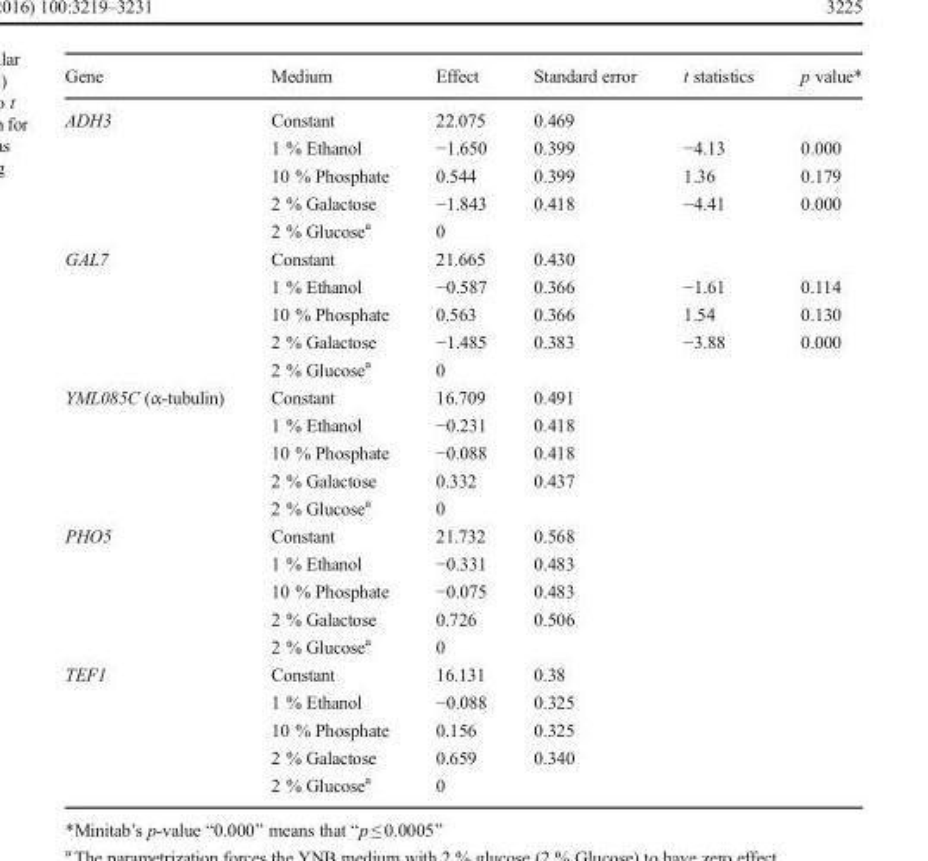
<table><thead><tr><td>Gene</td><td>Medium</td><td>Effect</td><td>Standard error</td><td>t statistics</td><td>p value*</td></tr></thead><tbody><tr><td rowspan="5">ADH3</td><td>Constant</td><td>22.075</td><td>0.469</td><td></td><td></td></tr><tr><td>1 % Ethanol</td><td>−1.650</td><td>0.399</td><td>−4.13</td><td>0.000</td></tr><tr><td>10 % Phosphate</td><td>0.544</td><td>0.399</td><td>1.36</td><td>0.179</td></tr><tr><td>2 % Galactose</td><td>−1.843</td><td>0.418</td><td>−4.41</td><td>0.000</td></tr><tr><td>2 % Glucose<sup>a</sup></td><td>0</td><td></td><td></td><td></td></tr><tr><td rowspan="5">GAL7</td><td>Constant</td><td>21.665</td><td>0.430</td><td></td><td></td></tr><tr><td>1 % Ethanol</td><td>−0.587</td><td>0.366</td><td>−1.61</td><td>0.114</td></tr><tr><td>10 % Phosphate</td><td>0.563</td><td>0.366</td><td>1.54</td><td>0.130</td></tr><tr><td>2 % Galactose</td><td>−1.485</td><td>0.383</td><td>−3.88</td><td>0.000</td></tr><tr><td>2 % Glucose<sup>a</sup></td><td>0</td><td></td><td></td><td></td></tr><tr><td rowspan="5">YML085C (α-tubulin)</td><td>Constant</td><td>16.709</td><td>0.491</td><td></td><td></td></tr><tr><td>1 % Ethanol</td><td>−0.231</td><td>0.418</td><td></td><td></td></tr><tr><td>10 % Phosphate</td><td>−0.088</td><td>0.418</td><td></td><td></td></tr><tr><td>2 % Galactose</td><td>0.332</td><td>0.437</td><td></td><td></td></tr><tr><td>2 % Glucose<sup>a</sup></td><td>0</td><td></td><td></td><td></td></tr><tr><td rowspan="5">PHO5</td><td>Constant</td><td>21.732</td><td>0.568</td><td></td><td></td></tr><tr><td>1 % Ethanol</td><td>−0.331</td><td>0.483</td><td></td><td></td></tr><tr><td>10 % Phosphate</td><td>−0.075</td><td>0.483</td><td></td><td></td></tr><tr><td>2 % Galactose</td><td>0.726</td><td>0.506</td><td></td><td></td></tr><tr><td>2 % Glucose<sup>a</sup></td><td>0</td><td></td><td></td><td></td></tr><tr><td rowspan="5">TEF1</td><td>Constant</td><td>16.131</td><td>0.38</td><td></td><td></td></tr><tr><td>1 % Ethanol</td><td>−0.088</td><td>0.325</td><td></td><td></td></tr><tr><td>10 % Phosphate</td><td>0.156</td><td>0.325</td><td></td><td></td></tr><tr><td>2 % Galactose</td><td>0.659</td><td>0.340</td><td></td><td></td></tr><tr><td>2 % Glucose<sup>a</sup></td><td>0</td><td></td><td></td><td></td></tr></tbody></table>